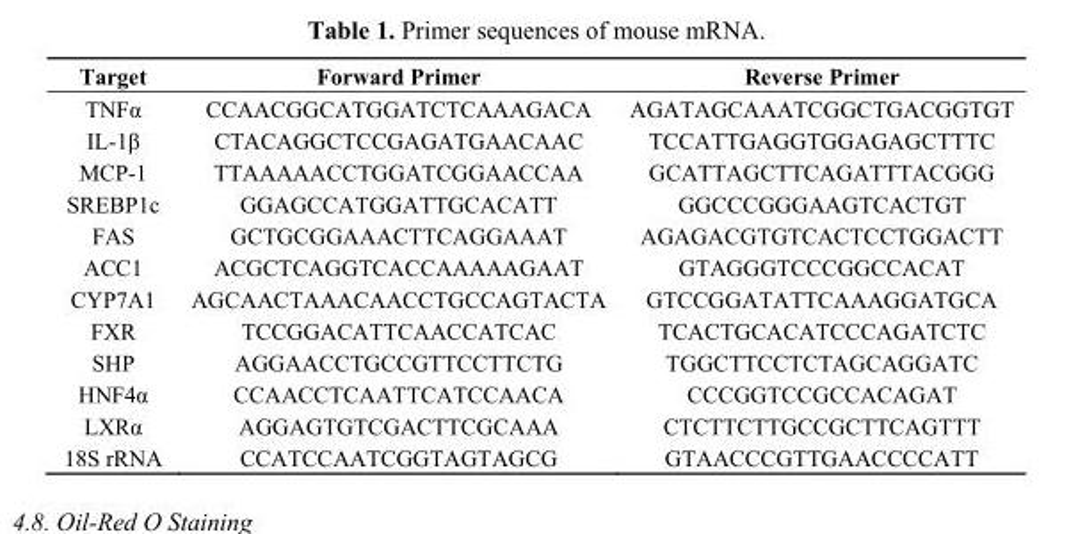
<table><thead><tr><td>Target</td><td>Forward Primer</td><td>Reverse Primer</td></tr></thead><tbody><tr><td>TNFα</td><td>CCAACGGCATGGATCTCAAAGACA</td><td>AGATAGCAAATCGGCTGACGGTGT</td></tr><tr><td>IL-1β</td><td>CTACAGGCTCCGAGATGAACAAC</td><td>TCCATTGAGGTGGAGAGCTTTC</td></tr><tr><td>MCP-1</td><td>TTAAAAACCTGGATCGGAACCAA</td><td>GCATTAGCTTCAGATTTACGGG</td></tr><tr><td>SREBP1c</td><td>GGAGCCATGGATTGCACATT</td><td>GGCCCGGGAAGTCACTGT</td></tr><tr><td>FAS</td><td>GCTGCGGAAACTTCAGGAAAT</td><td>AGAGACGTGTCACTCCTGGACTT</td></tr><tr><td>ACC1</td><td>ACGCTCAGGTCACCAAAAAGAAT</td><td>GTAGGGTCCCGGCCACAT</td></tr><tr><td>CYP7A1</td><td>AGCAACTAAACAACCTGCCAGTACTA</td><td>GTCCGGATATTCAAAGGATGCA</td></tr><tr><td>FXR</td><td>TCCGGACATTCAACCATCAC</td><td>TCACTGCACATCCCAGATCTC</td></tr><tr><td>SHP</td><td>AGGAACCTGCCGTTCCTTCTG</td><td>TGGCTTCCTCTAGCAGGATC</td></tr><tr><td>HNF4α</td><td>CCAACCTCAATTCATCCAACA</td><td>CCCGGTCCGCCACAGAT</td></tr><tr><td>LXRα</td><td>AGGAGTGTCGACTTCGCAAA</td><td>CTCTTCTTGCCGCTTCAGTTT</td></tr><tr><td>18S rRNA</td><td>CCATCCAATCGGTAGTAGCG</td><td>GTAACCCGTTGAACCCCATT</td></tr></tbody></table>